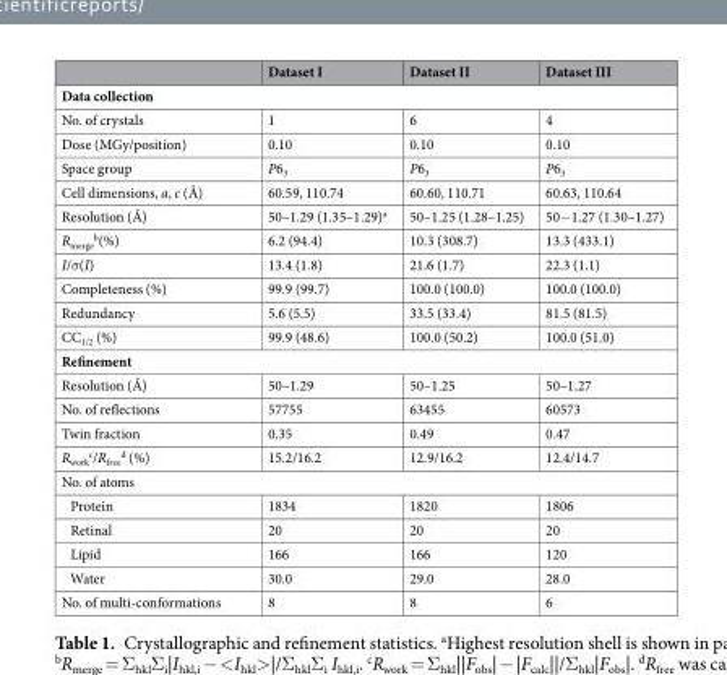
<table><thead><tr><td></td><td>Dataset I</td><td>Dataset II</td><td>Dataset III</td></tr></thead><tbody><tr><td colspan="4">Data collection</td></tr><tr><td>No. of crystals</td><td>1</td><td>6</td><td>4</td></tr><tr><td>Dose (MGy/position)</td><td>0.10</td><td>0.10</td><td>0.10</td></tr><tr><td>Space group</td><td>P6<sub>3</sub></td><td>P6<sub>3</sub></td><td>P6<sub>3</sub></td></tr><tr><td>Cell dimensions, a, c (Å)</td><td>60.59, 110.74</td><td>60.60, 110.71</td><td>60.63, 110.64</td></tr><tr><td>Resolution (Å)</td><td>50–1.29 (1.35–1.29)<sup>a</sup></td><td>50–1.25 (1.28–1.25)</td><td>50−1.27 (1.30–1.27)</td></tr><tr><td>R<sub>merge</sub> <sup>b</sup>(%)</td><td>6.2 (94.4)</td><td>10.3 (308.7)</td><td>13.3 (433.1)</td></tr><tr><td>I/σ(I)</td><td>13.4 (1.8)</td><td>21.6 (1.7)</td><td>22.3 (1.1)</td></tr><tr><td>Completeness (%)</td><td>99.9 (99.7)</td><td>100.0 (100.0)</td><td>100.0 (100.0)</td></tr><tr><td>Redundancy</td><td>5.6 (5.5)</td><td>33.5 (33.4)</td><td>81.5 (81.5)</td></tr><tr><td>CC<sub>1/2</sub> (%)</td><td>99.9 (48.6)</td><td>100.0 (50.2)</td><td>100.0 (51.0)</td></tr><tr><td colspan="4">Refinement</td></tr><tr><td>Resolution (Å)</td><td>50–1.29</td><td>50–1.25</td><td>50–1.27</td></tr><tr><td>No. of reflections</td><td>57755</td><td>63455</td><td>60573</td></tr><tr><td>Twin fraction</td><td>0.35</td><td>0.49</td><td>0.47</td></tr><tr><td>R<sub>work</sub> <sup>c</sup>/R<sub>free</sub> <sup>d</sup> (%)</td><td>15.2/16.2</td><td>12.9/16.2</td><td>12.4/14.7</td></tr><tr><td colspan="4">No. of atoms</td></tr><tr><td>Protein</td><td>1834</td><td>1820</td><td>1806</td></tr><tr><td>Retinal</td><td>20</td><td>20</td><td>20</td></tr><tr><td>Lipid</td><td>166</td><td>166</td><td>120</td></tr><tr><td>Water</td><td>30.0</td><td>29.0</td><td>28.0</td></tr><tr><td>No. of multi-conformations</td><td>8</td><td>8</td><td>6</td></tr></tbody></table>